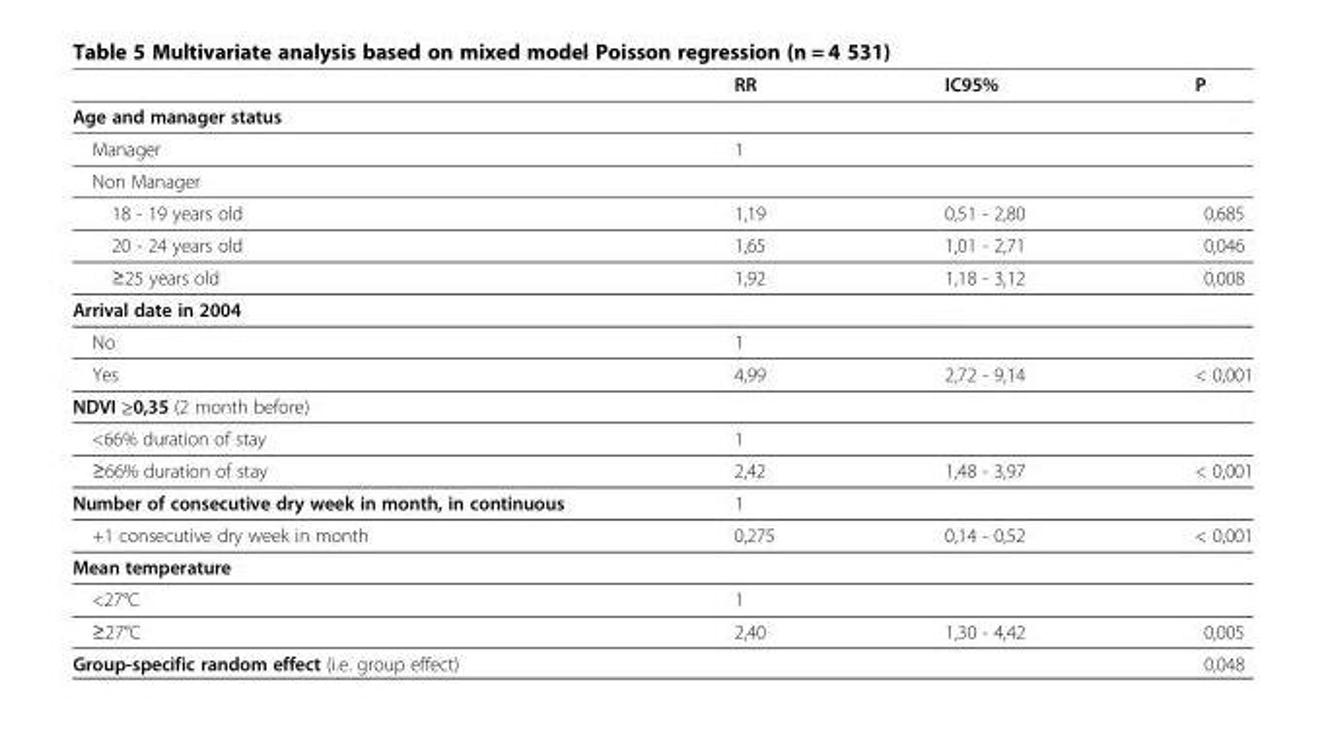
<table><thead><tr><td></td><td>RR</td><td>IC95%</td><td>P</td></tr></thead><tbody><tr><td colspan="4">Age and manager status</td></tr><tr><td>Manager</td><td>1</td><td></td><td></td></tr><tr><td colspan="4">Non Manager</td></tr><tr><td>18 - 19 years old</td><td>1,19</td><td>0,51 - 2,80</td><td>0,685</td></tr><tr><td>20 - 24 years old</td><td>1,65</td><td>1,01 - 2,71</td><td>0,046</td></tr><tr><td>≥25 years old</td><td>1,92</td><td>1,18 - 3,12</td><td>0,008</td></tr><tr><td colspan="4">Arrival date in 2004</td></tr><tr><td>No</td><td>1</td><td></td><td></td></tr><tr><td>Yes</td><td>4,99</td><td>2,72 - 9,14</td><td>&lt; 0,001</td></tr><tr><td colspan="4">NDVI ≥0,35 (2 month before)</td></tr><tr><td>&lt;66% duration of stay</td><td>1</td><td></td><td></td></tr><tr><td>≥66% duration of stay</td><td>2,42</td><td>1,48 - 3,97</td><td>&lt; 0,001</td></tr><tr><td>Number of consecutive dry week in month, in continuous</td><td>1</td><td></td><td></td></tr><tr><td>+1 consecutive dry week in month</td><td>0,275</td><td>0,14 - 0,52</td><td>&lt; 0,001</td></tr><tr><td colspan="4">Mean temperature</td></tr><tr><td>&lt;27°C</td><td>1</td><td></td><td></td></tr><tr><td>≥27°C</td><td>2,40</td><td>1,30 - 4,42</td><td>0,005</td></tr><tr><td>Group-specific random effect (i.e. group effect)</td><td></td><td></td><td>0,048</td></tr></tbody></table>